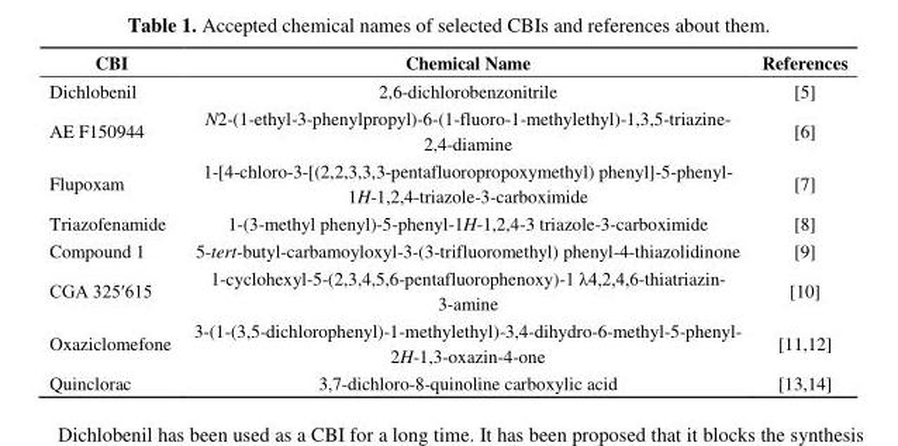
<table><thead><tr><td>CBI</td><td>Chemical Name</td><td>References</td></tr></thead><tbody><tr><td>Dichlobenil</td><td>2,6-dichlorobenzonitrile</td><td>[5]</td></tr><tr><td>AE F150944</td><td>N2-(1-ethyl-3-phenylpropyl)-6-(1-fluoro-1-methylethyl)-1,3,5-triazine- 2,4-diamine</td><td>[6]</td></tr><tr><td>Flupoxam</td><td>1-[4-chloro-3-[(2,2,3,3,3-pentafluoropropoxymethyl) phenyl]-5-phenyl- 1H-1,2,4-triazole-3-carboximide</td><td>[7]</td></tr><tr><td>Triazofenamide</td><td>1-(3-methyl phenyl)-5-phenyl-1H-1,2,4-3 triazole-3-carboximide</td><td>[8]</td></tr><tr><td>Compound 1</td><td>5-tert-butyl-carbamoyloxyl-3-(3-trifluoromethyl) phenyl-4-thiazolidinone</td><td>[9]</td></tr><tr><td>CGA 325′615</td><td>1-cyclohexyl-5-(2,3,4,5,6-pentafluorophenoxy)-1 λ4,2,4,6-thiatriazin- 3-amine</td><td>[10]</td></tr><tr><td>Oxaziclomefone</td><td>3-(1-(3,5-dichlorophenyl)-1-methylethyl)-3,4-dihydro-6-methyl-5-phenyl- 2H-1,3-oxazin-4-one</td><td>[11,12]</td></tr><tr><td>Quinclorac</td><td>3,7-dichloro-8-quinoline carboxylic acid</td><td>[13,14]</td></tr></tbody></table>